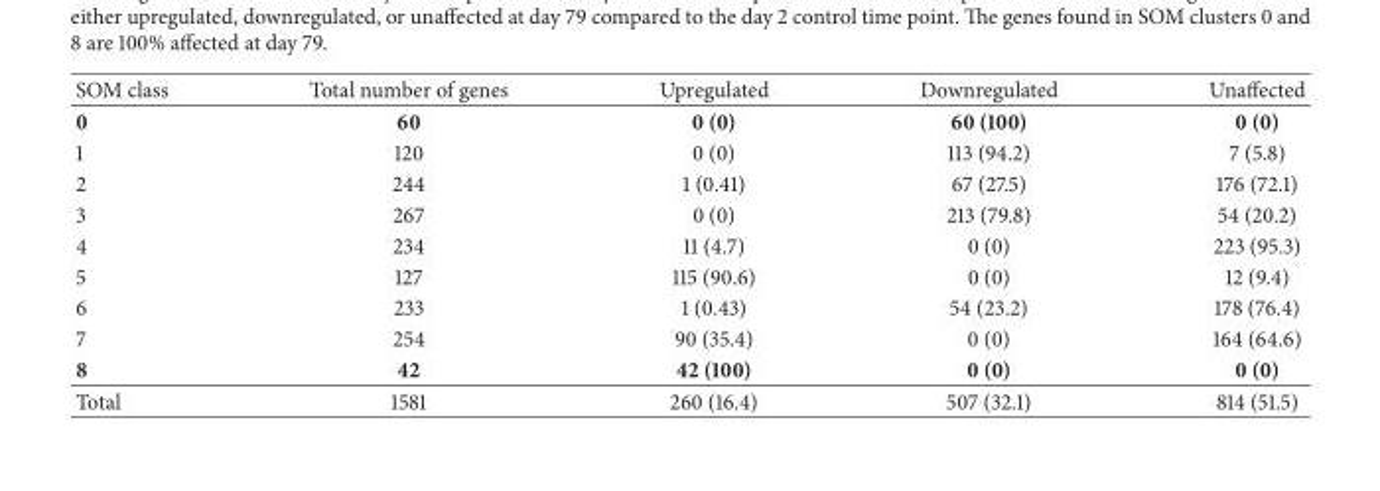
<table><thead><tr><td>SOM class</td><td>Total number of genes</td><td>Upregulated</td><td>Downregulated</td><td>Unaffected</td></tr></thead><tbody><tr><td>0</td><td>60</td><td>0 (0)</td><td>60 (100)</td><td>0 (0)</td></tr><tr><td>1</td><td>120</td><td>0 (0)</td><td>113 (94.2)</td><td>7 (5.8)</td></tr><tr><td>2</td><td>244</td><td>1 (0.41)</td><td>67 (27.5)</td><td>176 (72.1)</td></tr><tr><td>3</td><td>267</td><td>0 (0)</td><td>213 (79.8)</td><td>54 (20.2)</td></tr><tr><td>4</td><td>234</td><td>11 (4.7)</td><td>0 (0)</td><td>223 (95.3)</td></tr><tr><td>5</td><td>127</td><td>115 (90.6)</td><td>0 (0)</td><td>12 (9.4)</td></tr><tr><td>6</td><td>233</td><td>1 (0.43)</td><td>54 (23.2)</td><td>178 (76.4)</td></tr><tr><td>7</td><td>254</td><td>90 (35.4)</td><td>0 (0)</td><td>164 (64.6)</td></tr><tr><td>8</td><td>42</td><td>42 (100)</td><td>0 (0)</td><td>0 (0)</td></tr><tr><td>Total</td><td>1581</td><td>260 (16.4)</td><td>507 (32.1)</td><td>814 (51.5)</td></tr></tbody></table>